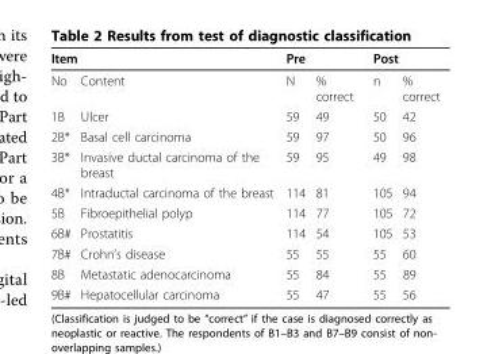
<table><thead><tr><td colspan="2">Item</td><td colspan="2">Pre</td><td colspan="2">Post</td></tr><tr><td>No</td><td>Content</td><td>N</td><td>% correct</td><td>n</td><td>% correct</td></tr></thead><tbody><tr><td>1B</td><td>Ulcer</td><td>59</td><td>49</td><td>50</td><td>42</td></tr><tr><td>2B*</td><td>Basal cell carcinoma</td><td>59</td><td>97</td><td>50</td><td>96</td></tr><tr><td>3B*</td><td>Invasive ductal carcinoma of the breast</td><td>59</td><td>95</td><td>49</td><td>98</td></tr><tr><td>4B*</td><td>Intraductal carcinoma of the breast</td><td>114</td><td>81</td><td>105</td><td>94</td></tr><tr><td>5B</td><td>Fibroepithelial polyp</td><td>114</td><td>77</td><td>105</td><td>72</td></tr><tr><td>6B#</td><td>Prostatitis</td><td>114</td><td>54</td><td>105</td><td>53</td></tr><tr><td>7B#</td><td>Crohn’s disease</td><td>55</td><td>55</td><td>55</td><td>60</td></tr><tr><td>8B</td><td>Metastatic adenocarcinoma</td><td>55</td><td>84</td><td>55</td><td>89</td></tr><tr><td>9B#</td><td>Hepatocellular carcinoma</td><td>55</td><td>47</td><td>55</td><td>56</td></tr></tbody></table>